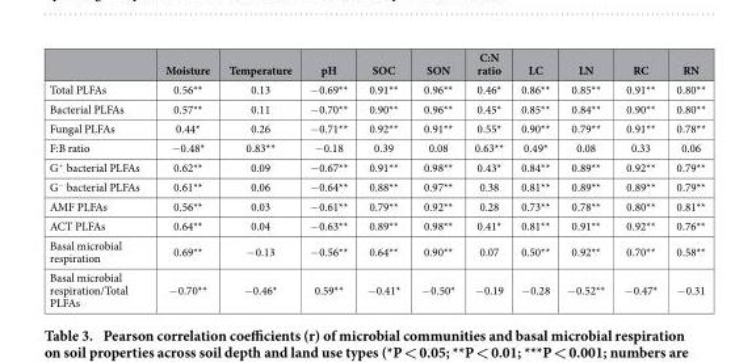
<table><thead><tr><td></td><td>Moisture</td><td>Temperature</td><td>pH</td><td>SOC</td><td>SON</td><td>C:N ratio</td><td>LC</td><td>LN</td><td>RC</td><td>RN</td></tr></thead><tbody><tr><td>Total PLFAs</td><td>0.56**</td><td>0.13</td><td>− 0.69**</td><td>0.91**</td><td>0.96**</td><td>0.46*</td><td>0.86**</td><td>0.85**</td><td>0.91**</td><td>0.80**</td></tr><tr><td>Bacterial PLFAs</td><td>0.57**</td><td>0.11</td><td>− 0.70**</td><td>0.90**</td><td>0.96**</td><td>0.45*</td><td>0.85**</td><td>0.84**</td><td>0.90**</td><td>0.80**</td></tr><tr><td>Fungal PLFAs</td><td>0.44*</td><td>0.26</td><td>− 0.71**</td><td>0.92**</td><td>0.91**</td><td>0.55*</td><td>0.90**</td><td>0.79**</td><td>0.91**</td><td>0.78**</td></tr><tr><td>F:B ratio</td><td>− 0.48*</td><td>0.83**</td><td>− 0.18</td><td>0.39</td><td>0.08</td><td>0.63**</td><td>0.49*</td><td>0.08</td><td>0.33</td><td>0.06</td></tr><tr><td>G<sup>+</sup> bacterial PLFAs</td><td>0.62**</td><td>0.09</td><td>− 0.67**</td><td>0.91**</td><td>0.98**</td><td>0.43*</td><td>0.84**</td><td>0.89**</td><td>0.92**</td><td>0.79**</td></tr><tr><td>G<sup>−</sup> bacterial PLFAs</td><td>0.61**</td><td>0.06</td><td>− 0.64**</td><td>0.88**</td><td>0.97**</td><td>0.38</td><td>0.81**</td><td>0.89**</td><td>0.89**</td><td>0.79**</td></tr><tr><td>AMF PLFAs</td><td>0.56**</td><td>0.03</td><td>− 0.61**</td><td>0.79**</td><td>0.92**</td><td>0.28</td><td>0.73**</td><td>0.78**</td><td>0.80**</td><td>0.81**</td></tr><tr><td>ACT PLFAs</td><td>0.64**</td><td>0.04</td><td>− 0.63**</td><td>0.89**</td><td>0.98**</td><td>0.41*</td><td>0.81**</td><td>0.91**</td><td>0.92**</td><td>0.76**</td></tr><tr><td>Basal microbial respiration</td><td>0.69**</td><td>− 0.13</td><td>− 0.56**</td><td>0.64**</td><td>0.90**</td><td>0.07</td><td>0.50**</td><td>0.92**</td><td>0.70**</td><td>0.58**</td></tr><tr><td>Basal microbial respiration/Total PLFAs</td><td>− 0.70**</td><td>− 0.46*</td><td>0.59**</td><td>− 0.41*</td><td>− 0.50*</td><td>− 0.19</td><td>− 0.28</td><td>− 0.52**</td><td>− 0.47*</td><td>− 0.31</td></tr></tbody></table>